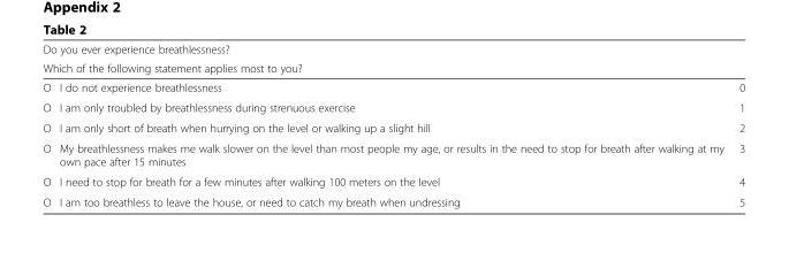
<table><thead><tr><td rowspan="2" colspan="2">Do you ever experience breathlessness? Which of the following statement applies most to you?</td><td rowspan="3">0</td></tr><tr></tr><tr><td>O</td><td>I do not experience breathlessness</td></tr></thead><tbody><tr><td>O</td><td>I am only troubled by breathlessness during strenuous exercise</td><td>1</td></tr><tr><td>O</td><td>I am only short of breath when hurrying on the level or walking up a slight hill</td><td>2</td></tr><tr><td>O</td><td>My breathlessness makes me walk slower on the level than most people my age, or results in the need to stop for breath after walking at my own pace after 15 minutes</td><td>3</td></tr><tr><td>O</td><td>I need to stop for breath for a few minutes after walking 100 meters on the level</td><td>4</td></tr><tr><td>O</td><td>I am too breathless to leave the house, or need to catch my breath when undressing</td><td>5</td></tr></tbody></table>